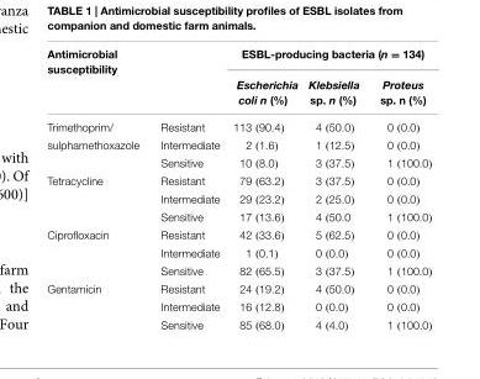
<table><thead><tr><td rowspan="2">Antimicrobial susceptibility</td><td rowspan="2"></td><td colspan="3">ESBL-producing bacteria (n = 134)</td></tr><tr><td>Escherichia coli n (%)</td><td>Klebsiella sp. n (%)</td><td>Proteus sp. n (%)</td></tr></thead><tbody><tr><td>Trimethoprim/</td><td>Resistant</td><td>113 (90.4)</td><td>4 (50.0)</td><td>0 (0.0)</td></tr><tr><td rowspan="2">sulphamethoxazole</td><td>Intermediate</td><td>2 (1.6)</td><td>1 (12.5)</td><td>0 (0.0)</td></tr><tr><td>Sensitive</td><td>10 (8.0)</td><td>3 (37.5)</td><td>1 (100.0)</td></tr><tr><td rowspan="3">Tetracycline</td><td>Resistant</td><td>79 (63.2)</td><td>3 (37.5)</td><td>0 (0.0)</td></tr><tr><td>Intermediate</td><td>29 (23.2)</td><td>2 (25.0)</td><td>0 (0.0)</td></tr><tr><td>Sensitive</td><td>17 (13.6)</td><td>4 (50.0</td><td>1 (100.0)</td></tr><tr><td rowspan="3">Ciprofloxacin</td><td>Resistant</td><td>42 (33.6)</td><td>5 (62.5)</td><td>0 (0.0)</td></tr><tr><td>Intermediate</td><td>1 (0.1)</td><td>0 (0.0)</td><td>0 (0.0)</td></tr><tr><td>Sensitive</td><td>82 (65.5)</td><td>3 (37.5)</td><td>1 (100.0)</td></tr><tr><td rowspan="3">Gentamicin</td><td>Resistant</td><td>24 (19.2)</td><td>4 (50.0)</td><td>0 (0.0)</td></tr><tr><td>Intermediate</td><td>16 (12.8)</td><td>0 (0.0)</td><td>0 (0.0)</td></tr><tr><td>Sensitive</td><td>85 (68.0)</td><td>4 (4.0)</td><td>1 (100.0)</td></tr></tbody></table>